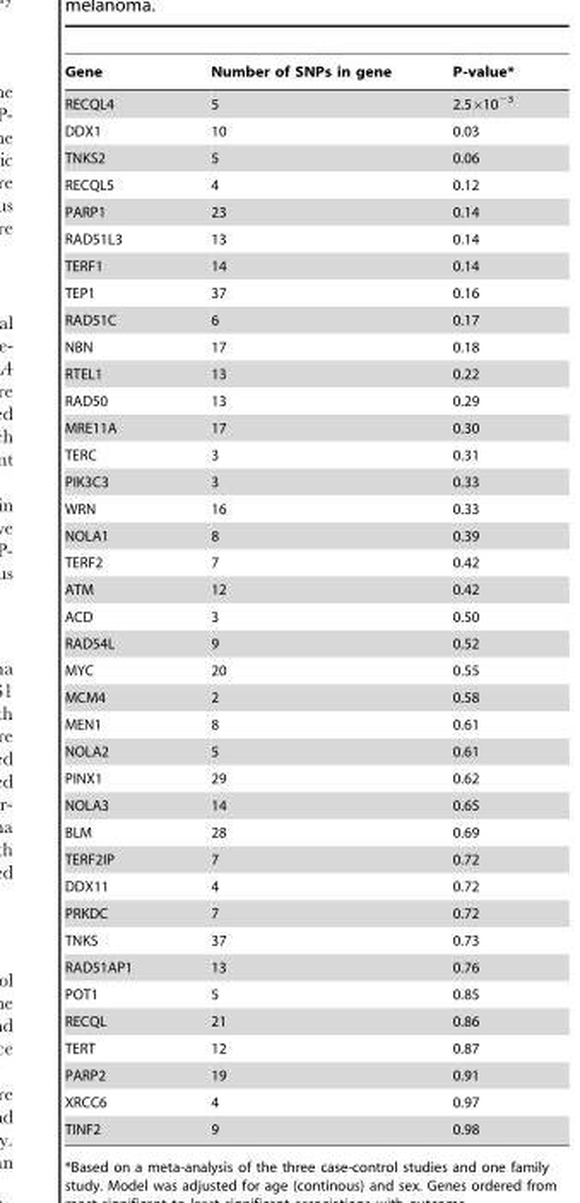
<table><thead><tr><td>Gene</td><td>Number of SNPs in gene</td><td>P-value*</td></tr></thead><tbody><tr><td>RECQL4</td><td>5</td><td>2.5×10<sup>−3</sup></td></tr><tr><td>DDX1</td><td>10</td><td>0.03</td></tr><tr><td>TNKS2</td><td>5</td><td>0.06</td></tr><tr><td>RECQL5</td><td>4</td><td>0.12</td></tr><tr><td>PARP1</td><td>23</td><td>0.14</td></tr><tr><td>RAD51L3</td><td>13</td><td>0.14</td></tr><tr><td>TERF1</td><td>14</td><td>0.14</td></tr><tr><td>TEP1</td><td>37</td><td>0.16</td></tr><tr><td>RAD51C</td><td>6</td><td>0.17</td></tr><tr><td>NBN</td><td>17</td><td>0.18</td></tr><tr><td>RTEL1</td><td>13</td><td>0.22</td></tr><tr><td>RAD50</td><td>13</td><td>0.29</td></tr><tr><td>MRE11A</td><td>17</td><td>0.30</td></tr><tr><td>TERC</td><td>3</td><td>0.31</td></tr><tr><td>PIK3C3</td><td>3</td><td>0.33</td></tr><tr><td>WRN</td><td>16</td><td>0.33</td></tr><tr><td>NOLA1</td><td>8</td><td>0.39</td></tr><tr><td>TERF2</td><td>7</td><td>0.42</td></tr><tr><td>ATM</td><td>12</td><td>0.42</td></tr><tr><td>ACD</td><td>3</td><td>0.50</td></tr><tr><td>RAD54L</td><td>9</td><td>0.52</td></tr><tr><td>MYC</td><td>20</td><td>0.55</td></tr><tr><td>MCM4</td><td>2</td><td>0.58</td></tr><tr><td>MEN1</td><td>8</td><td>0.61</td></tr><tr><td>NOLA2</td><td>5</td><td>0.61</td></tr><tr><td>PINX1</td><td>29</td><td>0.62</td></tr><tr><td>NOLA3</td><td>14</td><td>0.65</td></tr><tr><td>BLM</td><td>28</td><td>0.69</td></tr><tr><td>TERF2IP</td><td>7</td><td>0.72</td></tr><tr><td>DDX11</td><td>4</td><td>0.72</td></tr><tr><td>PRKDC</td><td>7</td><td>0.72</td></tr><tr><td>TNKS</td><td>37</td><td>0.73</td></tr><tr><td>RAD51AP1</td><td>13</td><td>0.76</td></tr><tr><td>POT1</td><td>5</td><td>0.85</td></tr><tr><td>RECQL</td><td>21</td><td>0.86</td></tr><tr><td>TERT</td><td>12</td><td>0.87</td></tr><tr><td>PARP2</td><td>19</td><td>0.91</td></tr><tr><td>XRCC6</td><td>4</td><td>0.97</td></tr><tr><td>TINF2</td><td>9</td><td>0.98</td></tr></tbody></table>